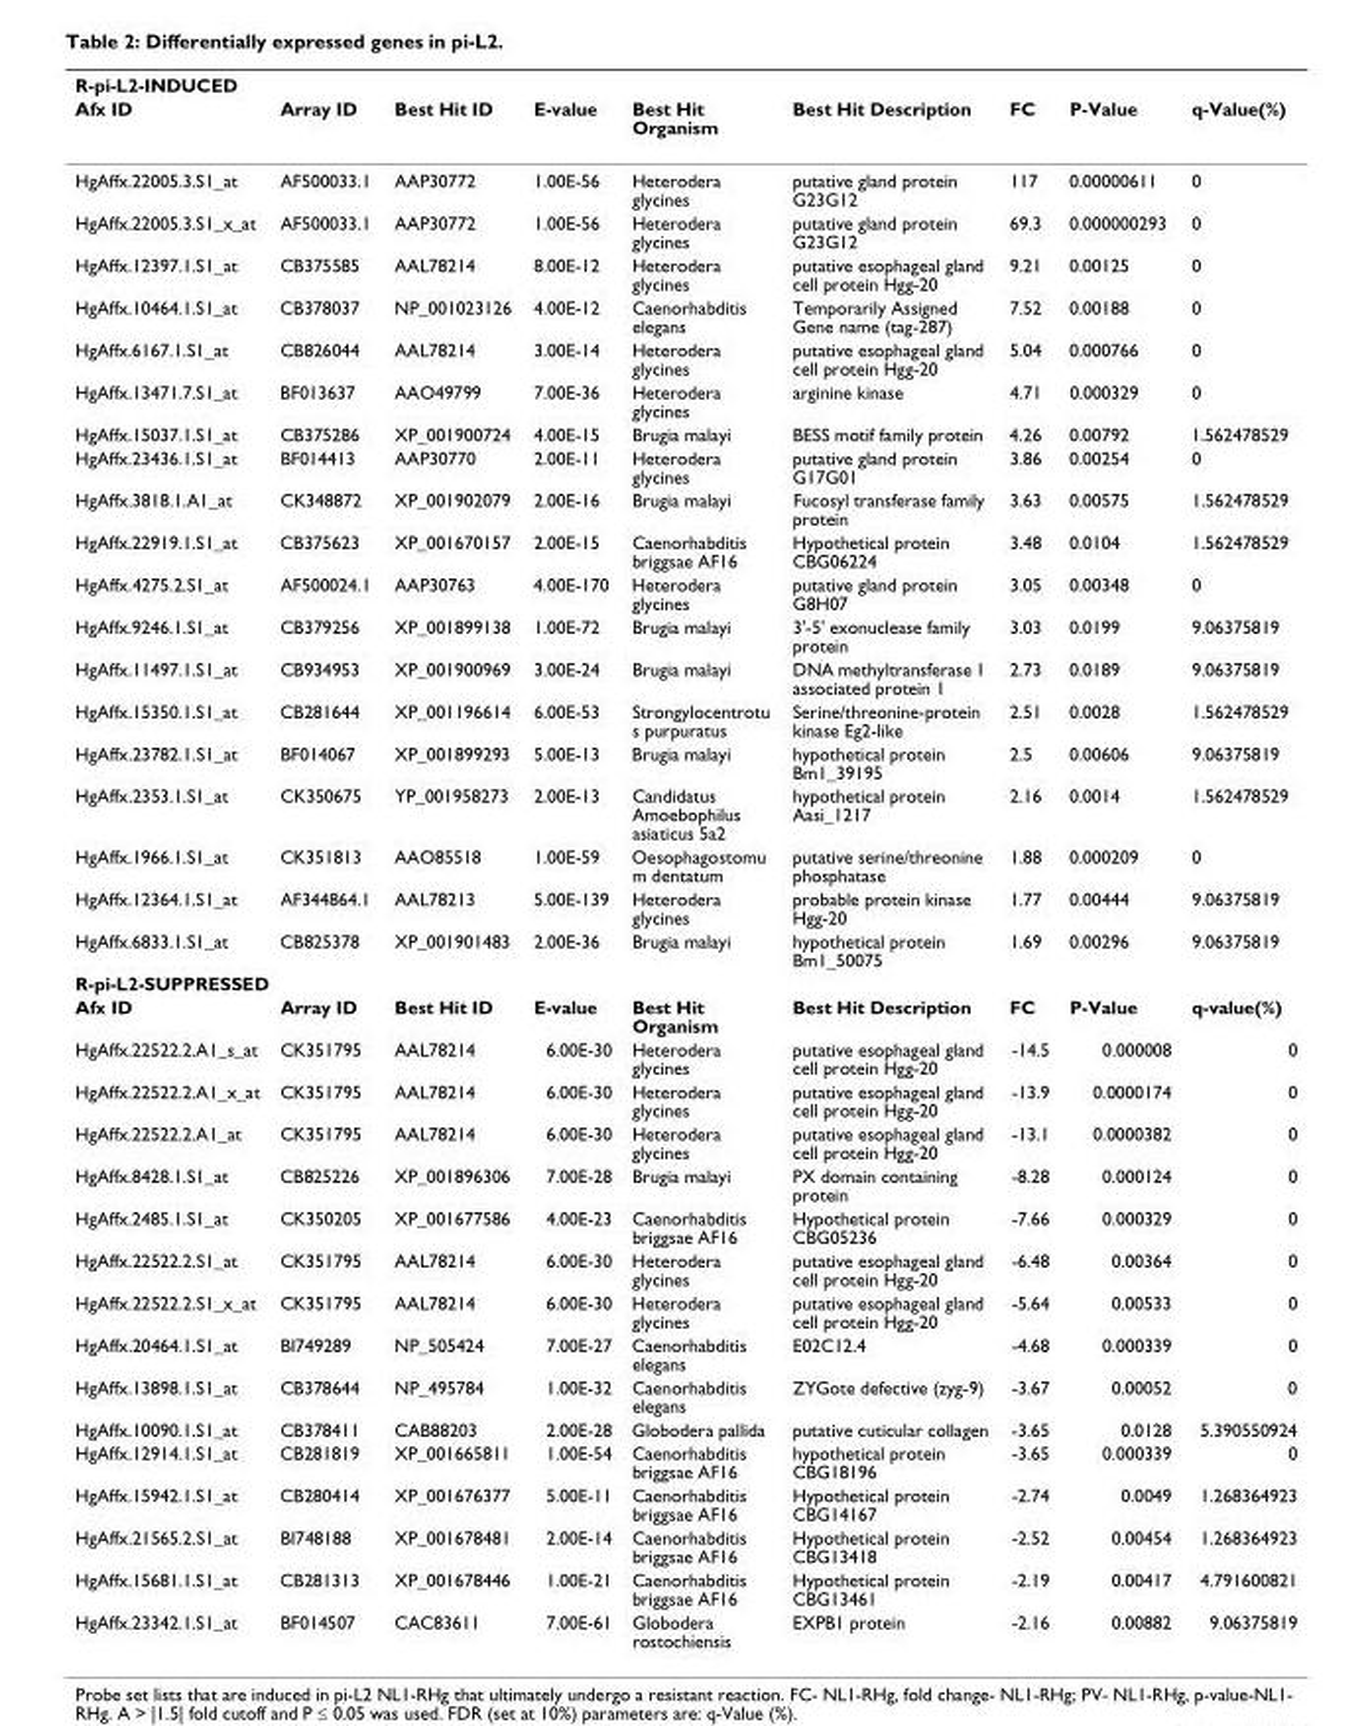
<table><thead><tr><td colspan="9">R-pi-L2-INDUCED</td></tr><tr><td>Afx ID</td><td>Array ID</td><td>Best Hit ID</td><td>E-value</td><td>Best Hit Organism</td><td>Best Hit Description</td><td>FC</td><td>P-Value</td><td>q-Value(%)</td></tr></thead><tbody><tr><td>HgAffx.22005.3.S1_at</td><td>AF500033.1</td><td>AAP30772</td><td>1.00E-56</td><td>Heterodera glycines</td><td>putative gland protein G23G12</td><td>117</td><td>0.00000611</td><td>0</td></tr><tr><td>HgAffx.22005.3.S1_x_at</td><td>AF500033.1</td><td>AAP30772</td><td>1.00E-56</td><td>Heterodera glycines</td><td>putative gland protein G23G12</td><td>69.3</td><td>0.000000293</td><td>0</td></tr><tr><td>HgAffx.12397.1.S1_at</td><td>CB375585</td><td>AAL78214</td><td>8.00E-12</td><td>Heterodera glycines</td><td>putative esophageal gland cell protein Hgg-20</td><td>9.21</td><td>0.00125</td><td>0</td></tr><tr><td>HgAffx.10464.1.S1_at</td><td>CB378037</td><td>NP_001023126</td><td>4.00E-12</td><td>Caenorhabditis elegans</td><td>Temporarily Assigned Gene name (tag-287)</td><td>7.52</td><td>0.00188</td><td>0</td></tr><tr><td>HgAffx.6167.1.S1_at</td><td>CB826044</td><td>AAL78214</td><td>3.00E-14</td><td>Heterodera glycines</td><td>putative esophageal gland cell protein Hgg-20</td><td>5.04</td><td>0.000766</td><td>0</td></tr><tr><td>HgAffx.13471.7.S1_at</td><td>BF013637</td><td>AAO49799</td><td>7.00E-36</td><td>Heterodera glycines</td><td>arginine kinase</td><td>4.71</td><td>0.000329</td><td>0</td></tr><tr><td>HgAffx.15037.1.S1_at</td><td>CB375286</td><td>XP_001900724</td><td>4.00E-15</td><td>Brugia malayi</td><td>BESS motif family protein</td><td>4.26</td><td>0.00792</td><td>1.562478529</td></tr><tr><td>HgAffx.23436.1.S1_at</td><td>BF014413</td><td>AAP30770</td><td>2.00E-11</td><td>Heterodera glycines</td><td>putative gland protein G17G01</td><td>3.86</td><td>0.00254</td><td>0</td></tr><tr><td>HgAffx.3818.1.A1_at</td><td>CK348872</td><td>XP_001902079</td><td>2.00E-16</td><td>Brugia malayi</td><td>Fucosyl transferase family protein</td><td>3.63</td><td>0.00575</td><td>1.562478529</td></tr><tr><td>HgAffx.22919.1.S1_at</td><td>CB375623</td><td>XP_001670157</td><td>2.00E-15</td><td>Caenorhabditis briggsae AF16</td><td>Hypothetical protein CBG06224</td><td>3.48</td><td>0.0104</td><td>1.562478529</td></tr><tr><td>HgAffx.4275.2.S1_at</td><td>AF500024.1</td><td>AAP30763</td><td>4.00E-170</td><td>Heterodera glycines</td><td>putative gland protein G8H07</td><td>3.05</td><td>0.00348</td><td>0</td></tr><tr><td>HgAffx.9246.1.S1_at</td><td>CB379256</td><td>XP_001899138</td><td>1.00E-72</td><td>Brugia malayi</td><td>3&#x27;-5&#x27; exonuclease family protein</td><td>3.03</td><td>0.0199</td><td>9.06375819</td></tr><tr><td>HgAffx.11497.1.S1_at</td><td>CB934953</td><td>XP_001900969</td><td>3.00E-24</td><td>Brugia malayi</td><td>DNA methyltransferase 1 associated protein 1</td><td>2.73</td><td>0.0189</td><td>9.06375819</td></tr><tr><td>HgAffx.15350.1.S1_at</td><td>CB281644</td><td>XP_001196614</td><td>6.00E-53</td><td>Strongylocentrotu s purpuratus</td><td>Serine/threonine-protein kinase Eg2-like</td><td>2.51</td><td>0.0028</td><td>1.562478529</td></tr><tr><td>HgAffx.23782.1.S1_at</td><td>BF014067</td><td>XP_001899293</td><td>5.00E-13</td><td>Brugia malayi</td><td>hypothetical protein Bm1_39195</td><td>2.5</td><td>0.00606</td><td>9.06375819</td></tr><tr><td>HgAffx.2353.1.S1_at</td><td>CK350675</td><td>YP_001958273</td><td>2.00E-13</td><td>Candidatus Amoebophilus asiaticus 5a2</td><td>hypothetical protein Aasi_1217</td><td>2.16</td><td>0.0014</td><td>1.562478529</td></tr><tr><td>HgAffx.1966.1.S1_at</td><td>CK351813</td><td>AAO85518</td><td>1.00E-59</td><td>Oesophagostomu m dentatum</td><td>putative serine/threonine phosphatase</td><td>1.88</td><td>0.000209</td><td>0</td></tr><tr><td>HgAffx.12364.1.S1_at</td><td>AF344864.1</td><td>AAL78213</td><td>5.00E-139</td><td>Heterodera glycines</td><td>probable protein kinase Hgg-20</td><td>1.77</td><td>0.00444</td><td>9.06375819</td></tr><tr><td>HgAffx.6833.1.S1_at</td><td>CB825378</td><td>XP_001901483</td><td>2.00E-36</td><td>Brugia malayi</td><td>hypothetical protein Bm1_50075</td><td>1.69</td><td>0.00296</td><td>9.06375819</td></tr><tr><td colspan="9">R-pi-L2-SUPPRESSED</td></tr><tr><td>Afx ID</td><td>Array ID</td><td>Best Hit ID</td><td>E-value</td><td>Best Hit Organism</td><td>Best Hit Description</td><td>FC</td><td>P-Value</td><td>q-value(%)</td></tr><tr><td>HgAffx.22522.2.A1_s_at</td><td>CK351795</td><td>AAL78214</td><td>6.00E-30</td><td>Heterodera glycines</td><td>putative esophageal gland cell protein Hgg-20</td><td>-14.5</td><td>0.000008</td><td>0</td></tr><tr><td>HgAffx.22522.2.A1_x_at</td><td>CK351795</td><td>AAL78214</td><td>6.00E-30</td><td>Heterodera glycines</td><td>putative esophageal gland cell protein Hgg-20</td><td>-13.9</td><td>0.0000174</td><td>0</td></tr><tr><td>HgAffx.22522.2.A1_at</td><td>CK351795</td><td>AAL78214</td><td>6.00E-30</td><td>Heterodera glycines</td><td>putative esophageal gland cell protein Hgg-20</td><td>-13.1</td><td>0.0000382</td><td>0</td></tr><tr><td>HgAffx.8428.1.S1_at</td><td>CB825226</td><td>XP_001896306</td><td>7.00E-28</td><td>Brugia malayi</td><td>PX domain containing protein</td><td>-8.28</td><td>0.000124</td><td>0</td></tr><tr><td>HgAffx.2485.1.S1_at</td><td>CK350205</td><td>XP_001677586</td><td>4.00E-23</td><td>Caenorhabditis briggsae AF16</td><td>Hypothetical protein CBG05236</td><td>-7.66</td><td>0.000329</td><td>0</td></tr><tr><td>HgAffx.22522.2.S1_at</td><td>CK351795</td><td>AAL78214</td><td>6.00E-30</td><td>Heterodera glycines</td><td>putative esophageal gland cell protein Hgg-20</td><td>-6.48</td><td>0.00364</td><td>0</td></tr><tr><td>HgAffx.22522.2.S1_x_at</td><td>CK351795</td><td>AAL78214</td><td>6.00E-30</td><td>Heterodera glycines</td><td>putative esophageal gland cell protein Hgg-20</td><td>-5.64</td><td>0.00533</td><td>0</td></tr><tr><td>HgAffx.20464.1.S1_at</td><td>BI749289</td><td>NP_505424</td><td>7.00E-27</td><td>Caenorhabditis elegans</td><td>E02C12.4</td><td>-4.68</td><td>0.000339</td><td>0</td></tr><tr><td>HgAffx.13898.1.S1_at</td><td>CB378644</td><td>NP_495784</td><td>1.00E-32</td><td>Caenorhabditis elegans</td><td>ZYGote defective (zyg-9)</td><td>-3.67</td><td>0.00052</td><td>0</td></tr><tr><td>HgAffx.10090.1.S1_at</td><td>CB378411</td><td>CAB88203</td><td>2.00E-28</td><td>Globodera pallida</td><td>putative cuticular collagen</td><td>-3.65</td><td>0.0128</td><td>5.390550924</td></tr><tr><td>HgAffx.12914.1.S1_at</td><td>CB281819</td><td>XP_001665811</td><td>1.00E-54</td><td>Caenorhabditis briggsae AF16</td><td>hypothetical protein CBG18196</td><td>-3.65</td><td>0.000339</td><td>0</td></tr><tr><td>HgAffx.15942.1.S1_at</td><td>CB280414</td><td>XP_001676377</td><td>5.00E-11</td><td>Caenorhabditis briggsae AF16</td><td>Hypothetical protein CBG14167</td><td>-2.74</td><td>0.0049</td><td>1.268364923</td></tr><tr><td>HgAffx.21565.2.S1_at</td><td>BI748188</td><td>XP_001678481</td><td>2.00E-14</td><td>Caenorhabditis briggsae AF16</td><td>Hypothetical protein CBG13418</td><td>-2.52</td><td>0.00454</td><td>1.268364923</td></tr><tr><td>HgAffx.15681.1.S1_at</td><td>CB281313</td><td>XP_001678446</td><td>1.00E-21</td><td>Caenorhabditis briggsae AF16</td><td>Hypothetical protein CBG13461</td><td>-2.19</td><td>0.00417</td><td>4.791600821</td></tr><tr><td>HgAffx.23342.1.S1_at</td><td>BF014507</td><td>CAC83611</td><td>7.00E-61</td><td>Globodera rostochiensis</td><td>EXPB1 protein</td><td>-2.16</td><td>0.00882</td><td>9.06375819</td></tr></tbody></table>